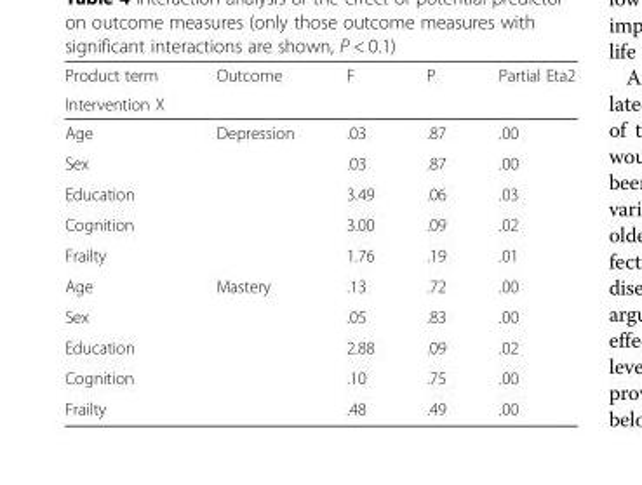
<table><thead><tr><td rowspan="2">Product term Intervention X</td><td rowspan="2">Outcome</td><td rowspan="2">F</td><td rowspan="2">P</td><td rowspan="2">Partial Eta2</td></tr><tr></tr></thead><tbody><tr><td>Age</td><td rowspan="5">Depression</td><td>.03</td><td>.87</td><td>.00</td></tr><tr><td>Sex</td><td>.03</td><td>.87</td><td>.00</td></tr><tr><td>Education</td><td>3.49</td><td>.06</td><td>.03</td></tr><tr><td>Cognition</td><td>3.00</td><td>.09</td><td>.02</td></tr><tr><td>Frailty</td><td>1.76</td><td>.19</td><td>.01</td></tr><tr><td>Age</td><td rowspan="5">Mastery</td><td>.13</td><td>.72</td><td>.00</td></tr><tr><td>Sex</td><td>.05</td><td>.83</td><td>.00</td></tr><tr><td>Education</td><td>2.88</td><td>.09</td><td>.02</td></tr><tr><td>Cognition</td><td>.10</td><td>.75</td><td>.00</td></tr><tr><td>Frailty</td><td>.48</td><td>.49</td><td>.00</td></tr></tbody></table>